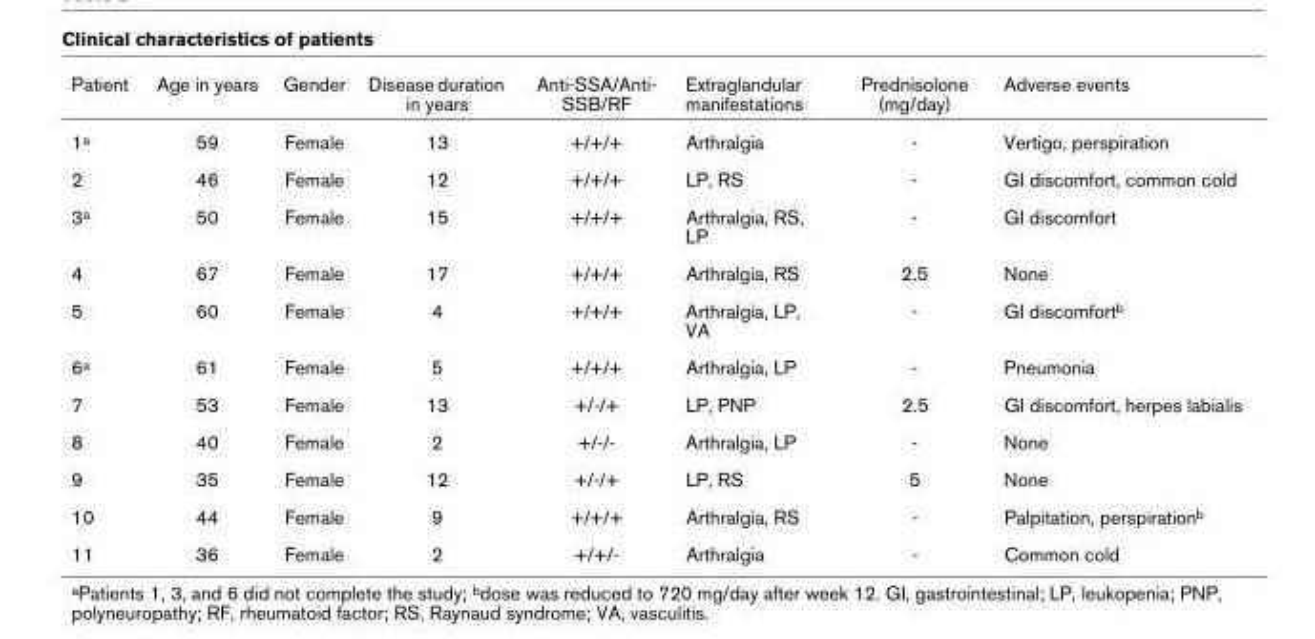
<table><thead><tr><td>Patient</td><td>Age in years</td><td>Gender</td><td>Disease duration in years</td><td>Anti-SSA/Anti- SSB/RF</td><td>Extraglandular manifestations</td><td>Prednisolone (mg/day)</td><td>Adverse events</td></tr></thead><tbody><tr><td>1<sup>a</sup></td><td>59</td><td>Female</td><td>13</td><td>+/+/+</td><td>Arthralgia</td><td>-</td><td>Vertigo, perspiration</td></tr><tr><td>2</td><td>46</td><td>Female</td><td>12</td><td>+/+/+</td><td>LP, RS</td><td>-</td><td>GI discomfort, common cold</td></tr><tr><td>3<sup>a</sup></td><td>50</td><td>Female</td><td>15</td><td>+/+/+</td><td>Arthralgia, RS, LP</td><td>-</td><td>GI discomfort</td></tr><tr><td>4</td><td>67</td><td>Female</td><td>17</td><td>+/+/+</td><td>Arthralgia, RS</td><td>2.5</td><td>None</td></tr><tr><td>5</td><td>60</td><td>Female</td><td>4</td><td>+/+/+</td><td>Arthralgia, LP, VA</td><td>-</td><td>GI discomfort<sup>b</sup></td></tr><tr><td>6<sup>a</sup></td><td>61</td><td>Female</td><td>5</td><td>+/+/+</td><td>Arthralgia, LP</td><td>-</td><td>Pneumonia</td></tr><tr><td>7</td><td>53</td><td>Female</td><td>13</td><td>+/-/+</td><td>LP, PNP</td><td>2.5</td><td>GI discomfort, herpes labialis</td></tr><tr><td>8</td><td>40</td><td>Female</td><td>2</td><td>+/-/-</td><td>Arthralgia, LP</td><td>-</td><td>None</td></tr><tr><td>9</td><td>35</td><td>Female</td><td>12</td><td>+/-/+</td><td>LP, RS</td><td>5</td><td>None</td></tr><tr><td>10</td><td>44</td><td>Female</td><td>9</td><td>+/+/+</td><td>Arthralgia, RS</td><td>-</td><td>Palpitation, perspiration<sup>b</sup></td></tr><tr><td>11</td><td>36</td><td>Female</td><td>2</td><td>+/+/-</td><td>Arthralgia</td><td>-</td><td>Common cold</td></tr></tbody></table>